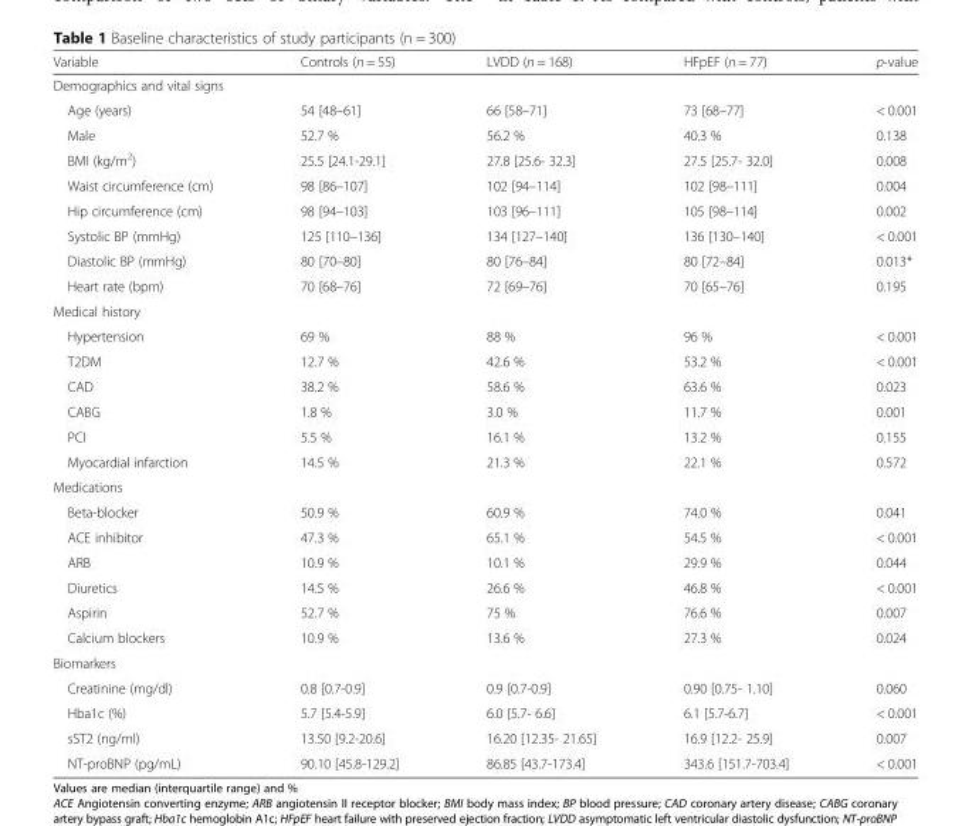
<table><thead><tr><td>Variable</td><td>Controls (n = 55)</td><td>LVDD (n = 168)</td><td>HFpEF (n = 77)</td><td>p-value</td></tr></thead><tbody><tr><td colspan="5">Demographics and vital signs</td></tr><tr><td>Age (years)</td><td>54 [48–61]</td><td>66 [58–71]</td><td>73 [68–77]</td><td>&lt; 0.001</td></tr><tr><td>Male</td><td>52.7 %</td><td>56.2 %</td><td>40.3 %</td><td>0.138</td></tr><tr><td>BMI (kg/m<sup>2</sup>)</td><td>25.5 [24.1-29.1]</td><td>27.8 [25.6- 32.3]</td><td>27.5 [25.7- 32.0]</td><td>0.008</td></tr><tr><td>Waist circumference (cm)</td><td>98 [86–107]</td><td>102 [94–114]</td><td>102 [98–111]</td><td>0.004</td></tr><tr><td>Hip circumference (cm)</td><td>98 [94–103]</td><td>103 [96–111]</td><td>105 [98–114]</td><td>0.002</td></tr><tr><td>Systolic BP (mmHg)</td><td>125 [110–136]</td><td>134 [127–140]</td><td>136 [130–140]</td><td>&lt; 0.001</td></tr><tr><td>Diastolic BP (mmHg)</td><td>80 [70–80]</td><td>80 [76–84]</td><td>80 [72–84]</td><td>0.013*</td></tr><tr><td>Heart rate (bpm)</td><td>70 [68–76]</td><td>72 [69–76]</td><td>70 [65–76]</td><td>0.195</td></tr><tr><td colspan="5">Medical history</td></tr><tr><td>Hypertension</td><td>69 %</td><td>88 %</td><td>96 %</td><td>&lt; 0.001</td></tr><tr><td>T2DM</td><td>12.7 %</td><td>42.6 %</td><td>53.2 %</td><td>&lt; 0.001</td></tr><tr><td>CAD</td><td>38.2 %</td><td>58.6 %</td><td>63.6 %</td><td>0.023</td></tr><tr><td>CABG</td><td>1.8 %</td><td>3.0 %</td><td>11.7 %</td><td>0.001</td></tr><tr><td>PCI</td><td>5.5 %</td><td>16.1 %</td><td>13.2 %</td><td>0.155</td></tr><tr><td>Myocardial infarction</td><td>14.5 %</td><td>21.3 %</td><td>22.1 %</td><td>0.572</td></tr><tr><td colspan="5">Medications</td></tr><tr><td>Beta-blocker</td><td>50.9 %</td><td>60.9 %</td><td>74.0 %</td><td>0.041</td></tr><tr><td>ACE inhibitor</td><td>47.3 %</td><td>65.1 %</td><td>54.5 %</td><td>&lt; 0.001</td></tr><tr><td>ARB</td><td>10.9 %</td><td>10.1 %</td><td>29.9 %</td><td>0.044</td></tr><tr><td>Diuretics</td><td>14.5 %</td><td>26.6 %</td><td>46.8 %</td><td>&lt; 0.001</td></tr><tr><td>Aspirin</td><td>52.7 %</td><td>75 %</td><td>76.6 %</td><td>0.007</td></tr><tr><td>Calcium blockers</td><td>10.9 %</td><td>13.6 %</td><td>27.3 %</td><td>0.024</td></tr><tr><td colspan="5">Biomarkers</td></tr><tr><td>Creatinine (mg/dl)</td><td>0.8 [0.7-0.9]</td><td>0.9 [0.7-0.9]</td><td>0.90 [0.75- 1.10]</td><td>0.060</td></tr><tr><td>Hba1c (%)</td><td>5.7 [5.4-5.9]</td><td>6.0 [5.7- 6.6]</td><td>6.1 [5.7-6.7]</td><td>&lt; 0.001</td></tr><tr><td>sST2 (ng/ml)</td><td>13.50 [9.2-20.6]</td><td>16.20 [12.35- 21.65]</td><td>16.9 [12.2- 25.9]</td><td>0.007</td></tr><tr><td>NT-proBNP (pg/mL)</td><td>90.10 [45.8-129.2]</td><td>86.85 [43.7-173.4]</td><td>343.6 [151.7-703.4]</td><td>&lt; 0.001</td></tr></tbody></table>